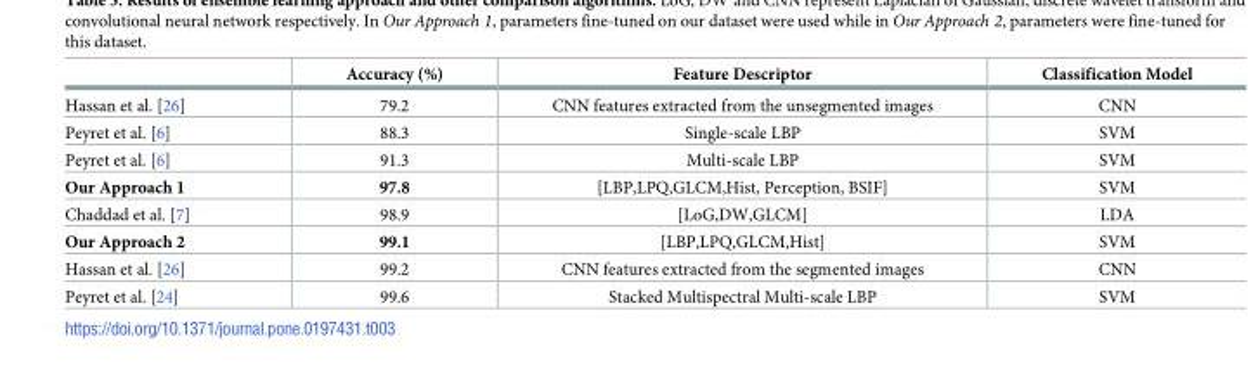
<table><thead><tr><td></td><td>Accuracy (%)</td><td>Feature Descriptor</td><td>Classification Model</td></tr></thead><tbody><tr><td>Hassan et al. [26]</td><td>79.2</td><td>CNN features extracted from the unsegmented images</td><td>CNN</td></tr><tr><td>Peyret et al. [6]</td><td>88.3</td><td>Single-scale LBP</td><td>SVM</td></tr><tr><td>Peyret et al. [6]</td><td>91.3</td><td>Multi-scale LBP</td><td>SVM</td></tr><tr><td>Our Approach 1</td><td>97.8</td><td>[LBP,LPQ,GLCM,Hist, Perception, BSIF]</td><td>SVM</td></tr><tr><td>Chaddad et al. [7]</td><td>98.9</td><td>[LoG,DW,GLCM]</td><td>LDA</td></tr><tr><td>Our Approach 2</td><td>99.1</td><td>[LBP,LPQ,GLCM,Hist]</td><td>SVM</td></tr><tr><td>Hassan et al. [26]</td><td>99.2</td><td>CNN features extracted from the segmented images</td><td>CNN</td></tr><tr><td>Peyret et al. [24]</td><td>99.6</td><td>Stacked Multispectral Multi-scale LBP</td><td>SVM</td></tr></tbody></table>